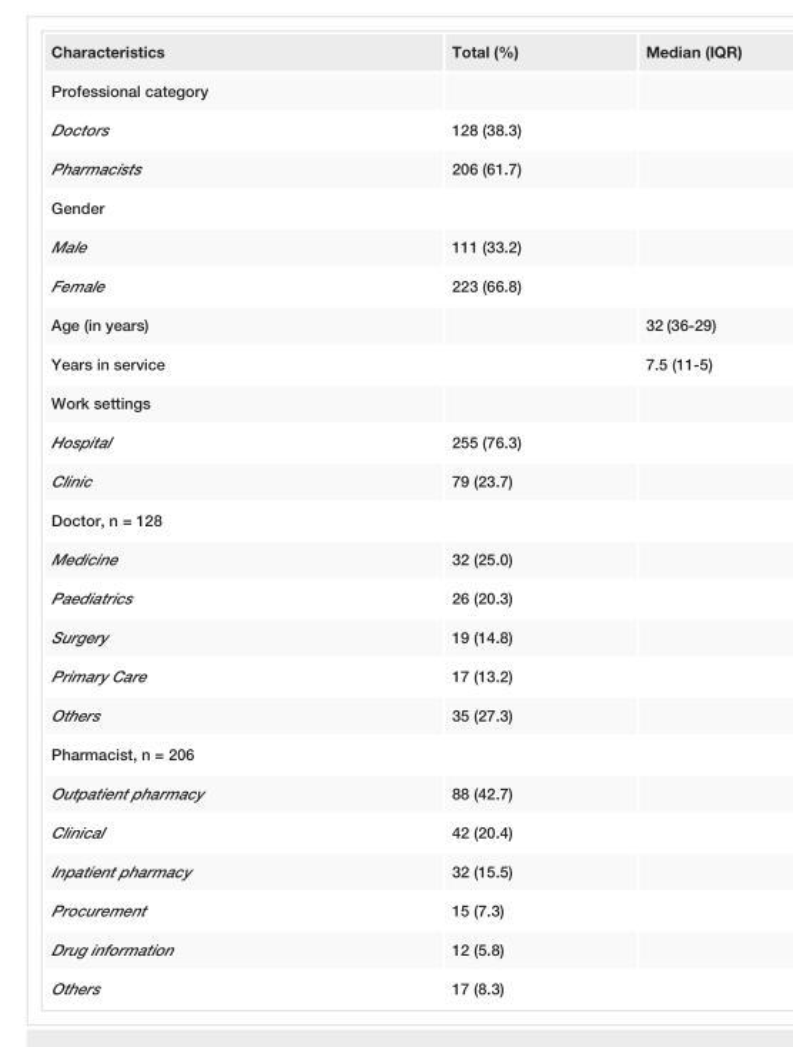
<table><tbody><tr><td>Characteristics</td><td>Total (%)</td><td>Median (IQR)</td></tr><tr><td colspan="3">Professional category</td></tr><tr><td>Doctors</td><td>128 (38.3)</td><td></td></tr><tr><td>Pharmacists</td><td>206 (61.7)</td><td></td></tr><tr><td colspan="3">Gender</td></tr><tr><td>Male</td><td>111 (33.2)</td><td></td></tr><tr><td>Female</td><td>223 (66.8)</td><td></td></tr><tr><td>Age (in years)</td><td></td><td>32 (36-29)</td></tr><tr><td>Years in service</td><td></td><td>7.5 (11-5)</td></tr><tr><td colspan="3">Work settings</td></tr><tr><td>Hospital</td><td>255 (76.3)</td><td></td></tr><tr><td>Clinic</td><td>79 (23.7)</td><td></td></tr><tr><td colspan="3">Doctor, n = 128</td></tr><tr><td>Medicine</td><td>32 (25.0)</td><td></td></tr><tr><td>Paediatrics</td><td>26 (20.3)</td><td></td></tr><tr><td>Surgery</td><td>19 (14.8)</td><td></td></tr><tr><td>Primary Care</td><td>17 (13.2)</td><td></td></tr><tr><td>Others</td><td>35 (27.3)</td><td></td></tr><tr><td colspan="3">Pharmacist, n = 206</td></tr><tr><td>Outpatient pharmacy</td><td>88 (42.7)</td><td></td></tr><tr><td>Clinical</td><td>42 (20.4)</td><td></td></tr><tr><td>Inpatient pharmacy</td><td>32 (15.5)</td><td></td></tr><tr><td>Procurement</td><td>15 (7.3)</td><td></td></tr><tr><td>Drug information</td><td>12 (5.8)</td><td></td></tr><tr><td>Others</td><td>17 (8.3)</td><td></td></tr></tbody></table>